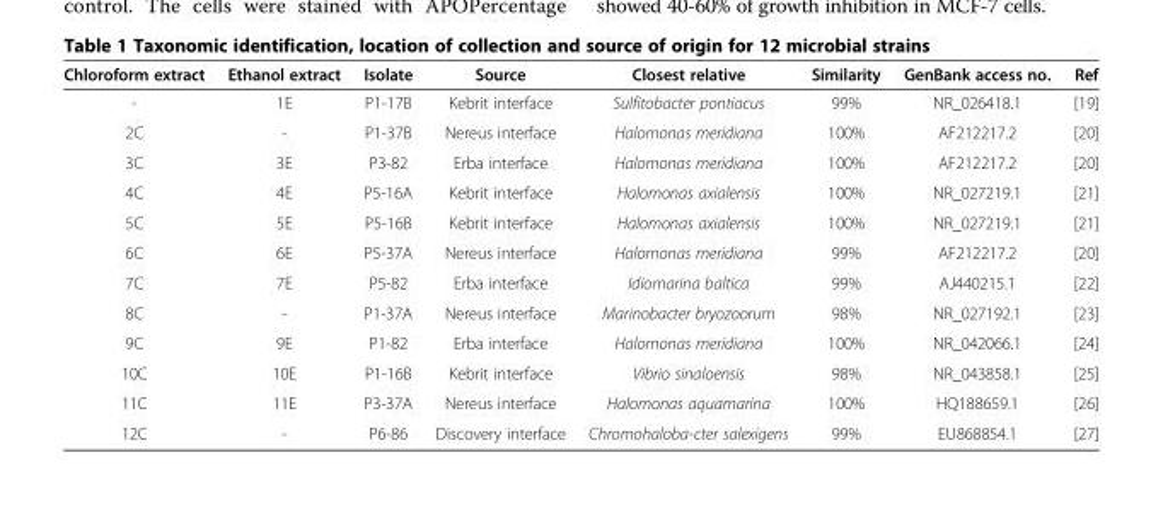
<table><thead><tr><td>Chloroform extract</td><td>Ethanol extract</td><td>Isolate</td><td>Source</td><td>Closest relative</td><td>Similarity</td><td>GenBank access no.</td><td>Ref</td></tr></thead><tbody><tr><td>-</td><td>1E</td><td>P1-17B</td><td>Kebrit interface</td><td>Sulfitobacter pontiacus</td><td>99%</td><td>NR_026418.1</td><td>[19]</td></tr><tr><td>2C</td><td>-</td><td>P1-37B</td><td>Nereus interface</td><td>Halomonas meridiana</td><td>100%</td><td>AF212217.2</td><td>[20]</td></tr><tr><td>3C</td><td>3E</td><td>P3-82</td><td>Erba interface</td><td>Halomonas meridiana</td><td>100%</td><td>AF212217.2</td><td>[20]</td></tr><tr><td>4C</td><td>4E</td><td>P5-16A</td><td>Kebrit interface</td><td>Halomonas axialensis</td><td>100%</td><td>NR_027219.1</td><td>[21]</td></tr><tr><td>5C</td><td>5E</td><td>P5-16B</td><td>Kebrit interface</td><td>Halomonas axialensis</td><td>100%</td><td>NR_027219.1</td><td>[21]</td></tr><tr><td>6C</td><td>6E</td><td>P5-37A</td><td>Nereus interface</td><td>Halomonas meridiana</td><td>99%</td><td>AF212217.2</td><td>[20]</td></tr><tr><td>7C</td><td>7E</td><td>P5-82</td><td>Erba interface</td><td>Idiomarina baltica</td><td>99%</td><td>AJ440215.1</td><td>[22]</td></tr><tr><td>8C</td><td>-</td><td>P1-37A</td><td>Nereus interface</td><td>Marinobacter bryozoorum</td><td>98%</td><td>NR_027192.1</td><td>[23]</td></tr><tr><td>9C</td><td>9E</td><td>P1-82</td><td>Erba interface</td><td>Halomonas meridiana</td><td>100%</td><td>NR_042066.1</td><td>[24]</td></tr><tr><td>10C</td><td>10E</td><td>P1-16B</td><td>Kebrit interface</td><td>Vibrio sinaloensis</td><td>98%</td><td>NR_043858.1</td><td>[25]</td></tr><tr><td>11C</td><td>11E</td><td>P3-37A</td><td>Nereus interface</td><td>Halomonas aquamarina</td><td>100%</td><td>HQ188659.1</td><td>[26]</td></tr><tr><td>12C</td><td>-</td><td>P6-86</td><td>Discovery interface</td><td>Chromohaloba-cter salexigens</td><td>99%</td><td>EU868854.1</td><td>[27]</td></tr></tbody></table>